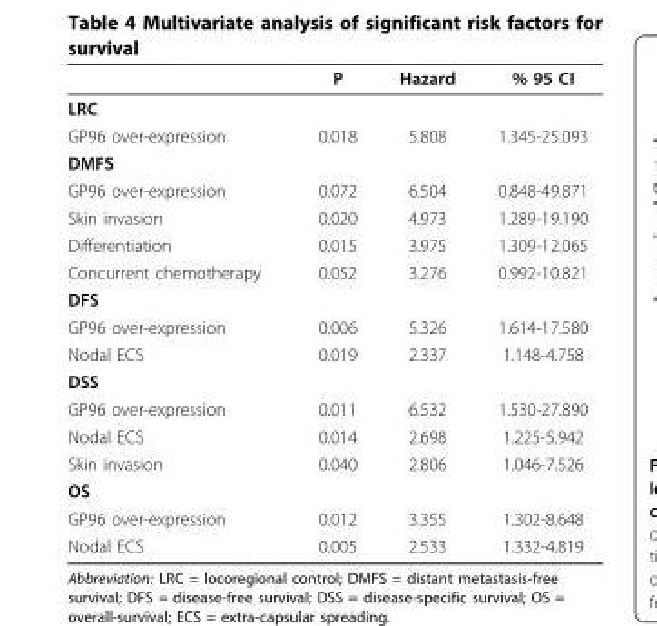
<table><thead><tr><td></td><td>P</td><td>Hazard</td><td>% 95 CI</td></tr></thead><tbody><tr><td colspan="4">LRC</td></tr><tr><td>GP96 over-expression</td><td>0.018</td><td>5.808</td><td>1.345-25.093</td></tr><tr><td colspan="4">DMFS</td></tr><tr><td>GP96 over-expression</td><td>0.072</td><td>6.504</td><td>0.848-49.871</td></tr><tr><td>Skin invasion</td><td>0.020</td><td>4.973</td><td>1.289-19.190</td></tr><tr><td>Differentiation</td><td>0.015</td><td>3.975</td><td>1.309-12.065</td></tr><tr><td>Concurrent chemotherapy</td><td>0.052</td><td>3.276</td><td>0.992-10.821</td></tr><tr><td colspan="4">DFS</td></tr><tr><td>GP96 over-expression</td><td>0.006</td><td>5.326</td><td>1.614-17.580</td></tr><tr><td>Nodal ECS</td><td>0.019</td><td>2.337</td><td>1.148-4.758</td></tr><tr><td colspan="4">DSS</td></tr><tr><td>GP96 over-expression</td><td>0.011</td><td>6.532</td><td>1.530-27.890</td></tr><tr><td>Nodal ECS</td><td>0.014</td><td>2.698</td><td>1.225-5.942</td></tr><tr><td>Skin invasion</td><td>0.040</td><td>2.806</td><td>1.046-7.526</td></tr><tr><td colspan="4">OS</td></tr><tr><td>GP96 over-expression</td><td>0.012</td><td>3.355</td><td>1.302-8.648</td></tr><tr><td>Nodal ECS</td><td>0.005</td><td>2.533</td><td>1.332-4.819</td></tr></tbody></table>